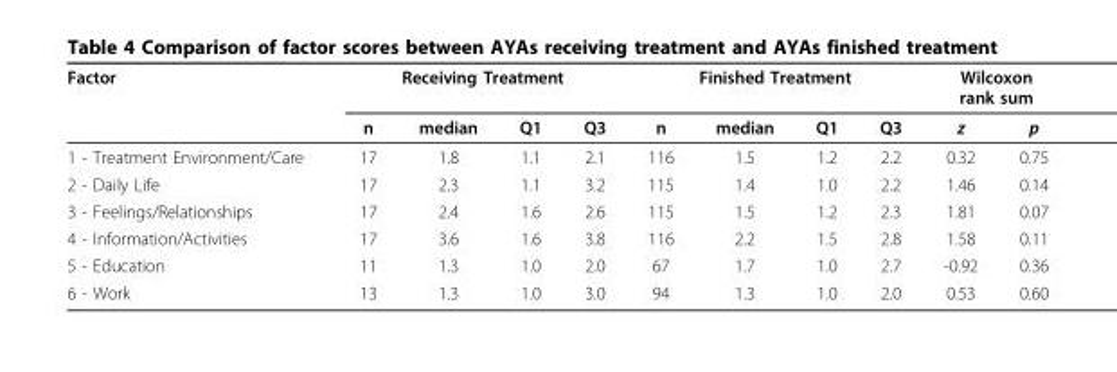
<table><thead><tr><td rowspan="2">Factor</td><td colspan="4">Receiving Treatment</td><td colspan="4">Finished Treatment</td><td colspan="2">Wilcoxon rank sum</td></tr><tr><td>n</td><td>median</td><td>Q1</td><td>Q3</td><td>n</td><td>median</td><td>Q1</td><td>Q3</td><td>z</td><td>p</td></tr></thead><tbody><tr><td>1 - Treatment Environment/Care</td><td>17</td><td>1.8</td><td>1.1</td><td>2.1</td><td>116</td><td>1.5</td><td>1.2</td><td>2.2</td><td>0.32</td><td>0.75</td></tr><tr><td>2 - Daily Life</td><td>17</td><td>2.3</td><td>1.1</td><td>3.2</td><td>115</td><td>1.4</td><td>1.0</td><td>2.2</td><td>1.46</td><td>0.14</td></tr><tr><td>3 - Feelings/Relationships</td><td>17</td><td>2.4</td><td>1.6</td><td>2.6</td><td>115</td><td>1.5</td><td>1.2</td><td>2.3</td><td>1.81</td><td>0.07</td></tr><tr><td>4 - Information/Activities</td><td>17</td><td>3.6</td><td>1.6</td><td>3.8</td><td>116</td><td>2.2</td><td>1.5</td><td>2.8</td><td>1.58</td><td>0.11</td></tr><tr><td>5 - Education</td><td>11</td><td>1.3</td><td>1.0</td><td>2.0</td><td>67</td><td>1.7</td><td>1.0</td><td>2.7</td><td>-0.92</td><td>0.36</td></tr><tr><td>6 - Work</td><td>13</td><td>1.3</td><td>1.0</td><td>3.0</td><td>94</td><td>1.3</td><td>1.0</td><td>2.0</td><td>0.53</td><td>0.60</td></tr></tbody></table>